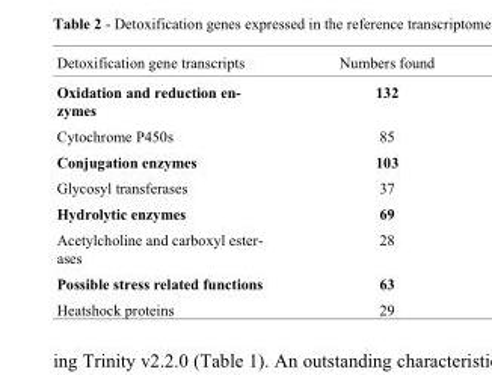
<table><thead><tr><td>Detoxification gene transcripts</td><td>Numbers found</td></tr></thead><tbody><tr><td>Oxidation and reduction en- zymes</td><td>132</td></tr><tr><td>Cytochrome P450s</td><td>85</td></tr><tr><td>Conjugation enzymes</td><td>103</td></tr><tr><td>Glycosyl transferases</td><td>37</td></tr><tr><td>Hydrolytic enzymes</td><td>69</td></tr><tr><td>Acetylcholine and carboxyl ester- ases</td><td>28</td></tr><tr><td>Possible stress related functions</td><td>63</td></tr><tr><td>Heatshock proteins</td><td>29</td></tr></tbody></table>